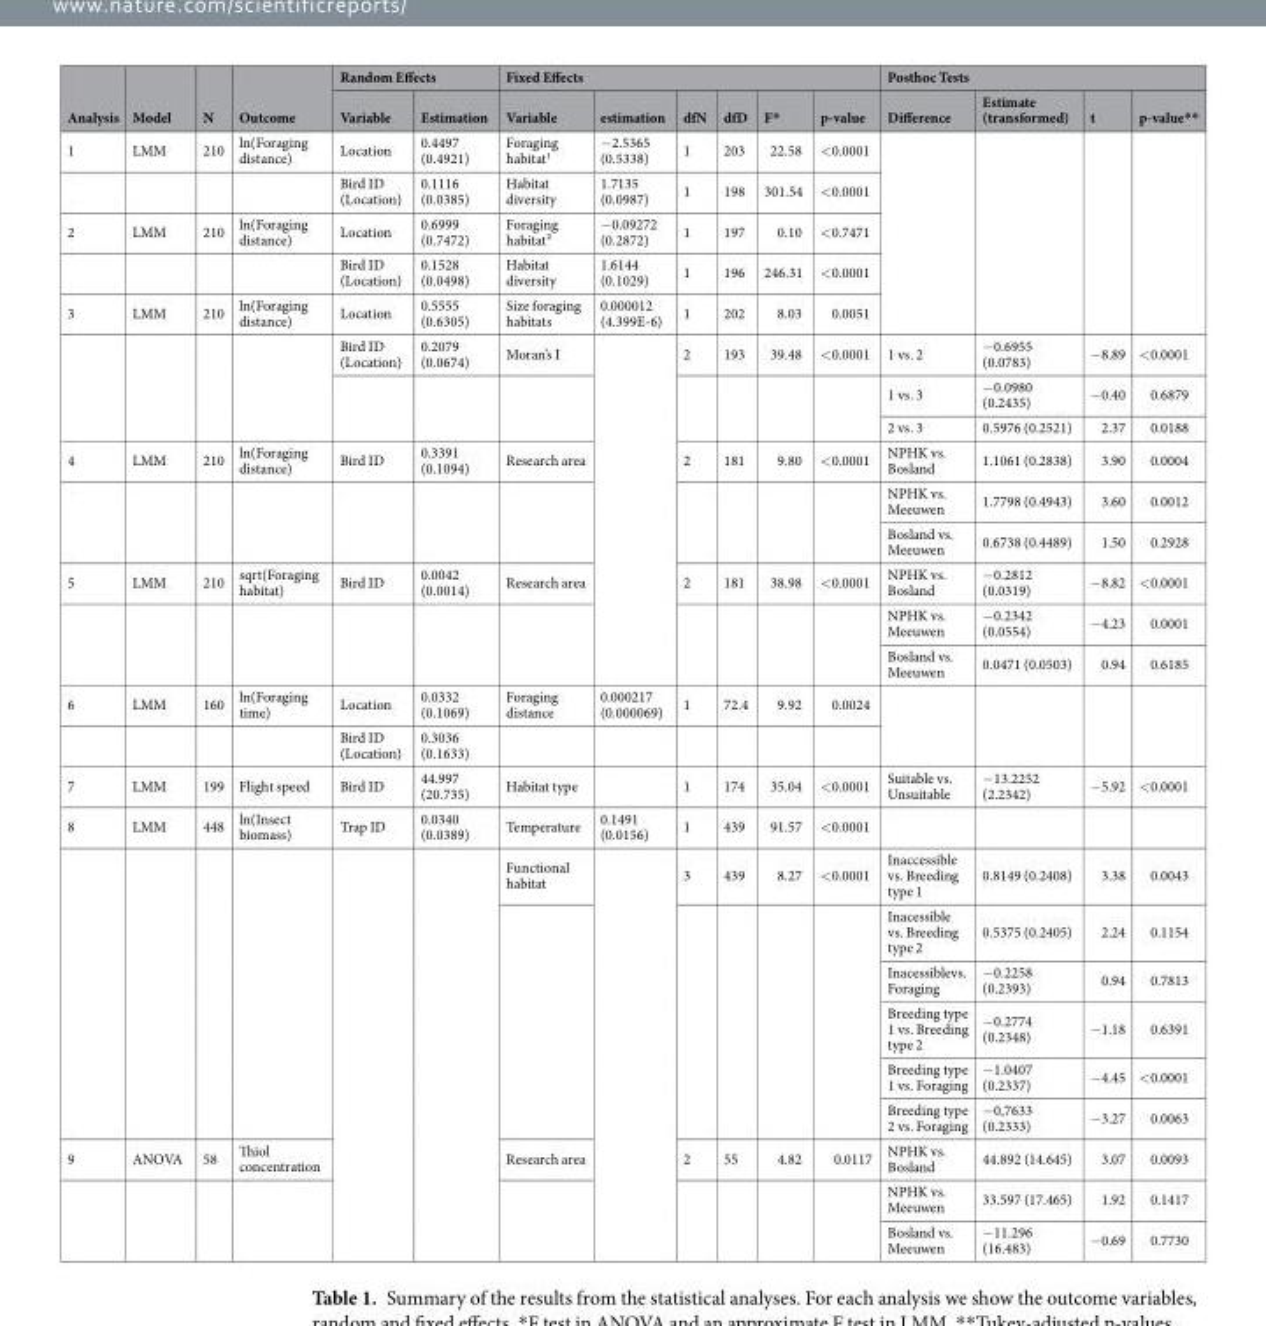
<table><thead><tr><td rowspan="2">Analysis</td><td rowspan="2">Model</td><td rowspan="2">N</td><td rowspan="2">Outcome</td><td colspan="2">Random Effects</td><td colspan="6">Fixed Effects</td><td colspan="4">Posthoc Tests</td></tr><tr><td>Variable</td><td>Estimation</td><td>Variable</td><td>estimation</td><td>dfN</td><td>dfD</td><td>F*</td><td>p-value</td><td>Difference</td><td>Estimate (transformed)</td><td>t</td><td>p-value**</td></tr></thead><tbody><tr><td rowspan="2">1</td><td>LMM</td><td>210</td><td>ln(Foraging distance)</td><td>Location</td><td>0.4497 (0.4921)</td><td>Foraging habitat<sup>1</sup></td><td>−2.5365 (0.5338)</td><td>1</td><td>203</td><td>22.58</td><td>&lt;0.0001</td><td rowspan="5"></td><td rowspan="5"></td><td rowspan="5"></td><td rowspan="5"></td></tr><tr><td></td><td></td><td></td><td>Bird ID (Location)</td><td>0.1116 (0.0385)</td><td>Habitat diversity</td><td>1.7135 (0.0987)</td><td>1</td><td>198</td><td>301.54</td><td>&lt;0.0001</td></tr><tr><td rowspan="2">2</td><td>LMM</td><td>210</td><td>ln(Foraging distance)</td><td>Location</td><td>0.6999 (0.7472)</td><td>Foraging habitat²</td><td>−0.09272 (0.2872)</td><td>1</td><td>197</td><td>0.10</td><td>&lt;0.7471</td></tr><tr><td></td><td></td><td></td><td>Bird ID (Location)</td><td>0.1528 (0.0498)</td><td>Habitat diversity</td><td>1.6144 (0.1029)</td><td>1</td><td>196</td><td>246.31</td><td>&lt;0.0001</td></tr><tr><td rowspan="4">3</td><td>LMM</td><td>210</td><td>ln(Foraging distance)</td><td>Location</td><td>0.5555 (0.6305)</td><td>Size foraging habitats</td><td>0.000012 (4.399E-6)</td><td>1</td><td>202</td><td>8.03</td><td>0.0051</td></tr><tr><td rowspan="3"></td><td rowspan="3"></td><td rowspan="3"></td><td>Bird ID (Location)</td><td>0.2079 (0.0674)</td><td>Moran’s I</td><td rowspan="9"></td><td>2</td><td>193</td><td>39.48</td><td>&lt;0.0001</td><td>1 vs. 2</td><td>−0.6955 (0.0783)</td><td>−8.89</td><td>&lt;0.0001</td></tr><tr><td rowspan="2"></td><td rowspan="2"></td><td rowspan="2"></td><td rowspan="2"></td><td rowspan="2"></td><td rowspan="2"></td><td rowspan="2"></td><td>1 vs. 3</td><td>−0.0980 (0.2435)</td><td>−0.40</td><td>0.6879</td></tr><tr><td>2 vs. 3</td><td>0.5976 (0.2521)</td><td>2.37</td><td>0.0188</td></tr><tr><td rowspan="3">4</td><td>LMM</td><td>210</td><td>ln(Foraging distance)</td><td>Bird ID</td><td>0.3391 (0.1094)</td><td>Research area</td><td>2</td><td>181</td><td>9.80</td><td>&lt;0.0001</td><td>NPHK vs. Bosland</td><td>1.1061 (0.2838)</td><td>3.90</td><td>0.0004</td></tr><tr><td rowspan="2"></td><td rowspan="2"></td><td rowspan="2"></td><td rowspan="2"></td><td rowspan="2"></td><td rowspan="2"></td><td rowspan="2"></td><td rowspan="2"></td><td rowspan="2"></td><td rowspan="2"></td><td>NPHK vs. Meeuwen</td><td>1.7798 (0.4943)</td><td>3.60</td><td>0.0012</td></tr><tr><td>Bosland vs. Meeuwen</td><td>0.6738 (0.4489)</td><td>1.50</td><td>0.2928</td></tr><tr><td rowspan="3">5</td><td>LMM</td><td>210</td><td>sqrt(Foraging habitat)</td><td>Bird ID</td><td>0.0042 (0.0014)</td><td>Research area</td><td>2</td><td>181</td><td>38.98</td><td>&lt;0.0001</td><td>NPHK vs. Bosland</td><td>−0.2812 (0.0319)</td><td>−8.82</td><td>&lt;0.0001</td></tr><tr><td rowspan="2"></td><td rowspan="2"></td><td rowspan="2"></td><td rowspan="2"></td><td rowspan="2"></td><td rowspan="2"></td><td rowspan="2"></td><td rowspan="2"></td><td rowspan="2"></td><td rowspan="2"></td><td>NPHK vs. Meeuwen</td><td>−0.2342 (0.0554)</td><td>−4.23</td><td>0.0001</td></tr><tr><td>Bosland vs. Meeuwen</td><td>0.0471 (0.0503)</td><td>0.94</td><td>0.6185</td></tr><tr><td rowspan="2">6</td><td>LMM</td><td>160</td><td>ln(Foraging time)</td><td>Location</td><td>0.0332 (0.1069)</td><td>Foraging distance</td><td>0.000217 (0.000069)</td><td>1</td><td>72.4</td><td>9.92</td><td>0.0024</td><td rowspan="2"></td><td rowspan="2"></td><td rowspan="2"></td><td rowspan="2"></td></tr><tr><td></td><td></td><td></td><td>Bird ID (Location)</td><td>0.3036 (0.1633)</td><td></td><td></td><td></td><td></td><td></td><td></td></tr><tr><td>7</td><td>LMM</td><td>199</td><td>Flight speed</td><td>Bird ID</td><td>44.997 (20.735)</td><td>Habitat type</td><td></td><td>1</td><td>174</td><td>35.04</td><td>&lt;0.0001</td><td>Suitable vs. Unsuitable</td><td>−13.2252 (2.2342)</td><td>−5.92</td><td>&lt;0.0001</td></tr><tr><td rowspan="7">8</td><td>LMM</td><td>448</td><td>ln(Insect biomass)</td><td>Trap ID</td><td>0.0340 (0.0389)</td><td>Temperature</td><td>0.1491 (0.0156)</td><td>1</td><td>439</td><td>91.57</td><td>&lt;0.0001</td><td></td><td></td><td></td><td></td></tr><tr><td rowspan="6"></td><td rowspan="6"></td><td rowspan="6"></td><td rowspan="9"></td><td rowspan="9"></td><td>Functional habitat</td><td rowspan="9"></td><td>3</td><td>439</td><td>8.27</td><td>&lt;0.0001</td><td>Inaccessible vs. Breeding type 1</td><td>0.8149 (0.2408)</td><td>3.38</td><td>0.0043</td></tr><tr><td rowspan="5"></td><td rowspan="5"></td><td rowspan="5"></td><td rowspan="5"></td><td rowspan="5"></td><td>Inacessible vs. Breeding type 2</td><td>0.5375 (0.2405)</td><td>2.24</td><td>0.1154</td></tr><tr><td>Inacessiblevs. Foraging</td><td>−0.2258 (0.2393)</td><td>0.94</td><td>0.7813</td></tr><tr><td>Breeding type 1 vs. Breeding type 2</td><td>−0.2774 (0.2348)</td><td>−1.18</td><td>0.6391</td></tr><tr><td>Breeding type 1 vs. Foraging</td><td>−1.0407 (0.2337)</td><td>−4.45</td><td>&lt;0.0001</td></tr><tr><td>Breeding type 2 vs. Foraging</td><td>−0,7633 (0.2333)</td><td>−3.27</td><td>0.0063</td></tr><tr><td rowspan="3">9</td><td>ANOVA</td><td>58</td><td>Thiol concentration</td><td>Research area</td><td>2</td><td>55</td><td>4.82</td><td>0.0117</td><td>NPHK vs. Bosland</td><td>44.892 (14.645)</td><td>3.07</td><td>0.0093</td></tr><tr><td rowspan="2"></td><td rowspan="2"></td><td rowspan="2"></td><td rowspan="2"></td><td rowspan="2"></td><td rowspan="2"></td><td rowspan="2"></td><td rowspan="2"></td><td>NPHK vs. Meeuwen</td><td>33.597 (17.465)</td><td>1.92</td><td>0.1417</td></tr><tr><td>Bosland vs. Meeuwen</td><td>−11.296 (16.483)</td><td>−0.69</td><td>0.7730</td></tr></tbody></table>